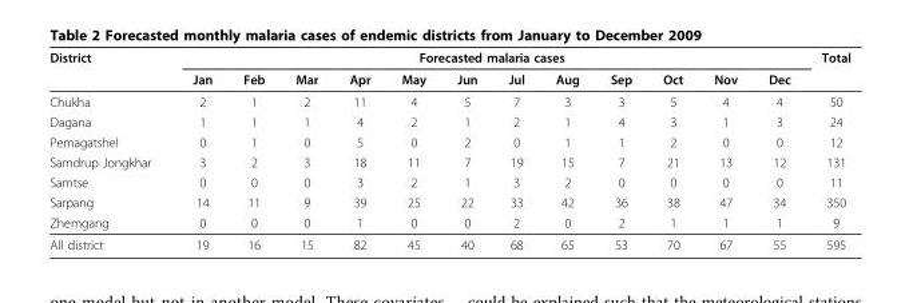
<table><thead><tr><td rowspan="2">District</td><td colspan="12">Forecasted malaria cases</td><td rowspan="2">Total</td></tr><tr><td>Jan</td><td>Feb</td><td>Mar</td><td>Apr</td><td>May</td><td>Jun</td><td>Jul</td><td>Aug</td><td>Sep</td><td>Oct</td><td>Nov</td><td>Dec</td></tr></thead><tbody><tr><td>Chukha</td><td>2</td><td>1</td><td>2</td><td>11</td><td>4</td><td>5</td><td>7</td><td>3</td><td>3</td><td>5</td><td>4</td><td>4</td><td>50</td></tr><tr><td>Dagana</td><td>1</td><td>1</td><td>1</td><td>4</td><td>2</td><td>1</td><td>2</td><td>1</td><td>4</td><td>3</td><td>1</td><td>3</td><td>24</td></tr><tr><td>Pemagatshel</td><td>0</td><td>1</td><td>0</td><td>5</td><td>0</td><td>2</td><td>0</td><td>1</td><td>1</td><td>2</td><td>0</td><td>0</td><td>12</td></tr><tr><td>Samdrup Jongkhar</td><td>3</td><td>2</td><td>3</td><td>18</td><td>11</td><td>7</td><td>19</td><td>15</td><td>7</td><td>21</td><td>13</td><td>12</td><td>131</td></tr><tr><td>Samtse</td><td>0</td><td>0</td><td>0</td><td>3</td><td>2</td><td>1</td><td>3</td><td>2</td><td>0</td><td>0</td><td>0</td><td>0</td><td>11</td></tr><tr><td>Sarpang</td><td>14</td><td>11</td><td>9</td><td>39</td><td>25</td><td>22</td><td>33</td><td>42</td><td>36</td><td>38</td><td>47</td><td>34</td><td>350</td></tr><tr><td>Zhemgang</td><td>0</td><td>0</td><td>0</td><td>1</td><td>0</td><td>0</td><td>2</td><td>0</td><td>2</td><td>1</td><td>1</td><td>1</td><td>9</td></tr><tr><td>All district</td><td>19</td><td>16</td><td>15</td><td>82</td><td>45</td><td>40</td><td>68</td><td>65</td><td>53</td><td>70</td><td>67</td><td>55</td><td>595</td></tr></tbody></table>